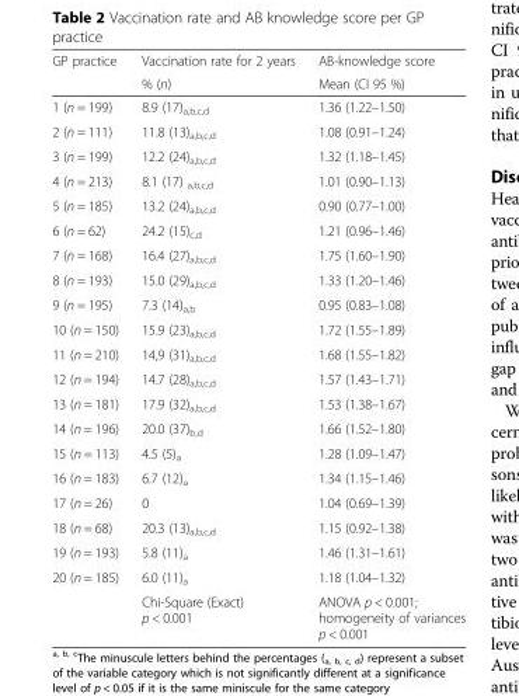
<table><thead><tr><td rowspan="2">GP practice</td><td rowspan="2">Vaccination rate for 2 years % (n)</td><td rowspan="2">AB-knowledge score Mean (CI 95 %)</td></tr><tr></tr></thead><tbody><tr><td>1 (n = 199)</td><td>8.9 (17)<sub>a,b,c,d</sub></td><td>1.36 (1.22–1.50)</td></tr><tr><td>2 (n = 111)</td><td>11.8 (13)<sub>a,b,c,d</sub></td><td>1.08 (0.91–1.24)</td></tr><tr><td>3 (n = 199)</td><td>12.2 (24)<sub>a,b,c,d</sub></td><td>1.32 (1.18–1.45)</td></tr><tr><td>4 (n = 213)</td><td>8.1 (17) <sub>a,b,c,d</sub></td><td>1.01 (0.90–1.13)</td></tr><tr><td>5 (n = 185)</td><td>13.2 (24)<sub>a,b,c,d</sub></td><td>0.90 (0.77–1.00)</td></tr><tr><td>6 (n = 62)</td><td>24.2 (15)<sub>c,d</sub></td><td>1.21 (0.96–1.46)</td></tr><tr><td>7 (n = 168)</td><td>16.4 (27)<sub>a,b,c,d</sub></td><td>1.75 (1.60–1.90)</td></tr><tr><td>8 (n = 193)</td><td>15.0 (29)<sub>a,b,c,d</sub></td><td>1.33 (1.20–1.46)</td></tr><tr><td>9 (n = 195)</td><td>7.3 (14)<sub>a,b</sub></td><td>0.95 (0.83–1.08)</td></tr><tr><td>10 (n = 150)</td><td>15.9 (23)<sub>a,b,c,d</sub></td><td>1.72 (1.55–1.89)</td></tr><tr><td>11 (n = 210)</td><td>14,9 (31)<sub>a,b,c,d</sub></td><td>1.68 (1.55–1.82)</td></tr><tr><td>12 (n = 194)</td><td>14.7 (28)<sub>a,b,c,d</sub></td><td>1.57 (1.43–1.71)</td></tr><tr><td>13 (n = 181)</td><td>17.9 (32)<sub>a,b,c,d</sub></td><td>1.53 (1.38–1.67)</td></tr><tr><td>14 (n = 196)</td><td>20.0 (37)<sub>b,d</sub></td><td>1.66 (1.52–1.80)</td></tr><tr><td>15 (n = 113)</td><td>4.5 (5)<sub>a</sub></td><td>1.28 (1.09–1.47)</td></tr><tr><td>16 (n = 183)</td><td>6.7 (12)<sub>a</sub></td><td>1.34 (1.15–1.46)</td></tr><tr><td>17 (n = 26)</td><td>0</td><td>1.04 (0.69–1.39)</td></tr><tr><td>18 (n = 68)</td><td>20.3 (13)<sub>a,b,c,d</sub></td><td>1.15 (0.92–1.38)</td></tr><tr><td>19 (n = 193)</td><td>5.8 (11)<sub>a</sub></td><td>1.46 (1.31–1.61)</td></tr><tr><td rowspan="2">20 (n = 185)</td><td>6.0 (11)<sub>a</sub></td><td>1.18 (1.04–1.32)</td></tr><tr><td>Chi-Square (Exact) p &lt; 0.001</td><td>ANOVA p &lt; 0.001; homogeneity of variances p &lt; 0.001</td></tr></tbody></table>